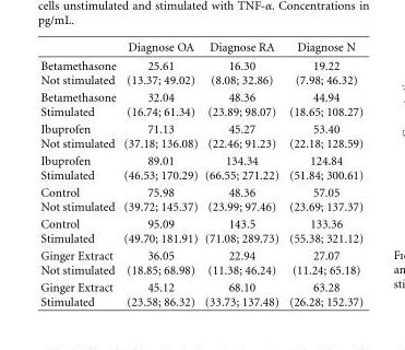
<table><thead><tr><td></td><td>Diagnose OA</td><td>Diagnose RA</td><td>Diagnose N</td></tr></thead><tbody><tr><td>Betamethasone Not stimulated</td><td>25.61 (13.37; 49.02)</td><td>16.30 (8.08; 32.86)</td><td>19.22 (7.98; 46.32)</td></tr><tr><td>Betamethasone Stimulated</td><td>32.04 (16.74; 61.34)</td><td>48.36 (23.89; 98.07)</td><td>44.94 (18.65; 108.27)</td></tr><tr><td>Ibuprofen Not stimulated</td><td>71.13 (37.18; 136.08)</td><td>45.27 (22.46; 91.23)</td><td>53.40 (22.18; 128.59)</td></tr><tr><td>Ibuprofen Stimulated</td><td>89.01 (46.53; 170.29)</td><td>134.34 (66.55; 271.22)</td><td>124.84 (51.84; 300.61)</td></tr><tr><td>Control Not stimulated</td><td>75.98 (39.72; 145.37)</td><td>48.36 (23.99; 97.46)</td><td>57.05 (23.69; 137.37)</td></tr><tr><td>Control Stimulated</td><td>95.09 (49.70; 181.91)</td><td>143.5 (71.08; 289.73)</td><td>133.36 (55.38; 321.12)</td></tr><tr><td>Ginger Extract Not stimulated</td><td>36.05 (18.85; 68.98)</td><td>22.94 (11.38; 46.24)</td><td>27.07 (11.24; 65.18)</td></tr><tr><td>Ginger Extract Stimulated</td><td>45.12 (23.58; 86.32)</td><td>68.10 (33.73; 137.48)</td><td>63.28 (26.28; 152.37)</td></tr></tbody></table>